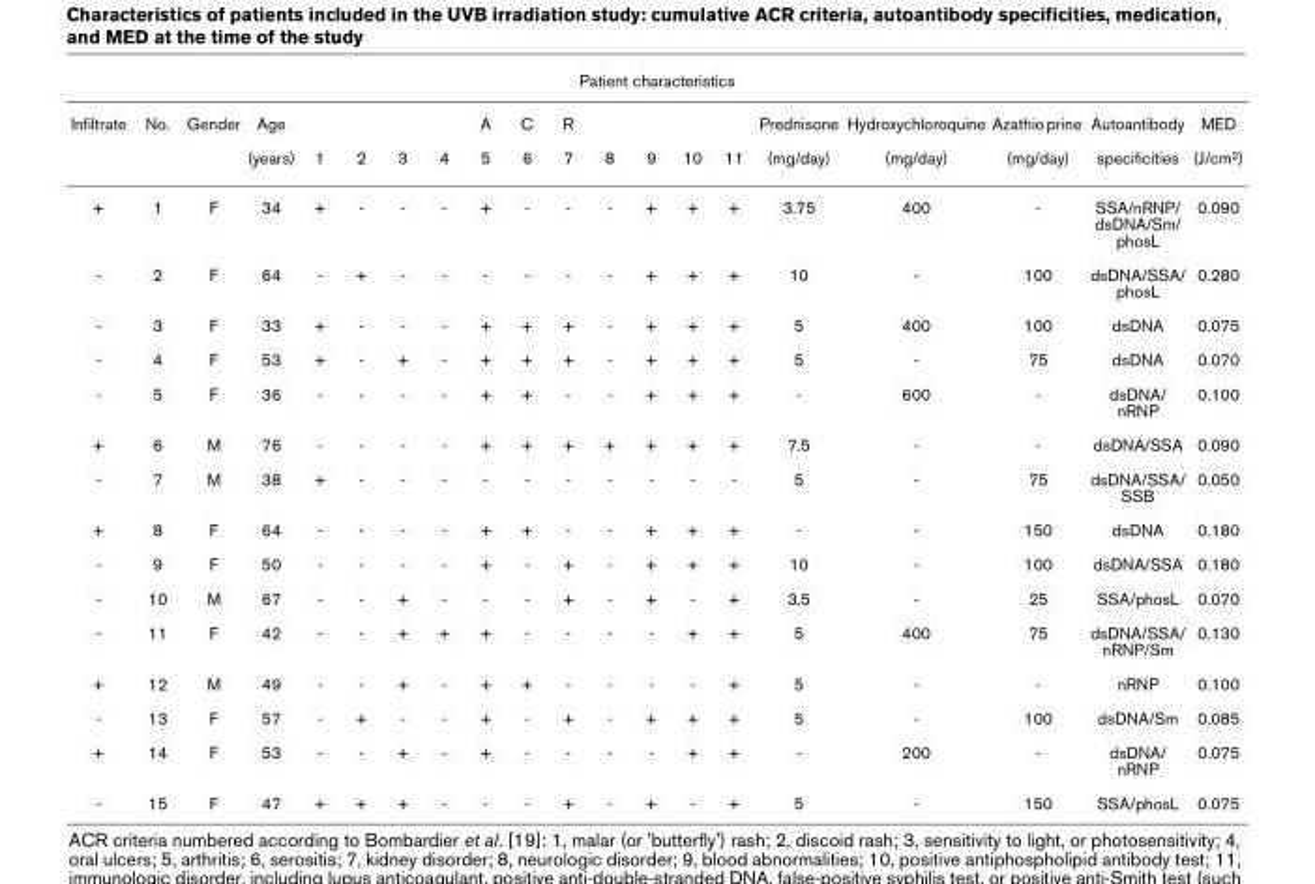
<table><thead><tr><td colspan="20">Patient characteristics</td></tr><tr><td>Infiltrate</td><td>No.</td><td>Gender</td><td>Age</td><td></td><td></td><td></td><td></td><td>A</td><td>C</td><td>R</td><td></td><td></td><td></td><td></td><td>Prednisone</td><td>Hydroxychloroquine</td><td>Azathio prine</td><td>Autoantibody</td><td>MED</td></tr></thead><tbody><tr><td></td><td></td><td></td><td>(years)</td><td>1</td><td>2</td><td>3</td><td>4</td><td>5</td><td>6</td><td>7</td><td>8</td><td>9</td><td>10</td><td>11</td><td>(mg/day)</td><td>(mg/day)</td><td>(mg/day)</td><td>specificities</td><td>(J/cm2)</td></tr><tr><td>+</td><td>1</td><td>F</td><td>34</td><td>+</td><td>-</td><td>-</td><td>-</td><td>+</td><td>-</td><td>-</td><td>-</td><td>+</td><td>+</td><td>+</td><td>3.75</td><td>400</td><td>-</td><td>SSA/nRNP/ dsDNA/Sm/ phosL</td><td>0.090</td></tr><tr><td>-</td><td>2</td><td>F</td><td>64</td><td>-</td><td>+</td><td>-</td><td>-</td><td>-</td><td>-</td><td>-</td><td>-</td><td>+</td><td>+</td><td>+</td><td>10</td><td>-</td><td>100</td><td>dsDNA/SSA/ phosL</td><td>0.280</td></tr><tr><td>-</td><td>3</td><td>F</td><td>33</td><td>+</td><td>-</td><td>-</td><td>-</td><td>+</td><td>+</td><td>+</td><td>-</td><td>+</td><td>+</td><td>+</td><td>5</td><td>400</td><td>100</td><td>dsDNA</td><td>0.075</td></tr><tr><td>-</td><td>4</td><td>F</td><td>53</td><td>+</td><td>-</td><td>+</td><td>-</td><td>+</td><td>+</td><td>+</td><td>-</td><td>+</td><td>+</td><td>+</td><td>5</td><td>-</td><td>75</td><td>dsDNA</td><td>0.070</td></tr><tr><td>-</td><td>5</td><td>F</td><td>36</td><td>-</td><td>-</td><td>-</td><td>-</td><td>+</td><td>+</td><td>-</td><td>-</td><td>+</td><td>+</td><td>+</td><td>-</td><td>600</td><td>-</td><td>dsDNA/ nRNP</td><td>0.100</td></tr><tr><td>+</td><td>6</td><td>M</td><td>76</td><td>-</td><td>-</td><td>-</td><td>-</td><td>+</td><td>+</td><td>+</td><td>+</td><td>+</td><td>+</td><td>+</td><td>7.5</td><td>-</td><td>-</td><td>dsDNA/SSA</td><td>0.090</td></tr><tr><td>-</td><td>7</td><td>M</td><td>38</td><td>+</td><td>-</td><td>-</td><td>-</td><td>-</td><td>-</td><td>-</td><td>-</td><td>-</td><td>-</td><td>-</td><td>5</td><td>-</td><td>75</td><td>dsDNA/SSA/ SSB</td><td>0.050</td></tr><tr><td>+</td><td>8</td><td>F</td><td>64</td><td>-</td><td>-</td><td>-</td><td>-</td><td>+</td><td>+</td><td>-</td><td>-</td><td>+</td><td>+</td><td>+</td><td>-</td><td>-</td><td>150</td><td>dsDNA</td><td>0.180</td></tr><tr><td>-</td><td>9</td><td>F</td><td>50</td><td>-</td><td>-</td><td>-</td><td>-</td><td>+</td><td>-</td><td>+</td><td>-</td><td>+</td><td>+</td><td>+</td><td>10</td><td>-</td><td>100</td><td>dsDNA/SSA</td><td>0.180</td></tr><tr><td>-</td><td>10</td><td>M</td><td>67</td><td>-</td><td>-</td><td>+</td><td>-</td><td>-</td><td>-</td><td>+</td><td>-</td><td>+</td><td>-</td><td>+</td><td>3.5</td><td>-</td><td>25</td><td>SSA/phosL</td><td>0.070</td></tr><tr><td>-</td><td>11</td><td>F</td><td>42</td><td>-</td><td>-</td><td>+</td><td>+</td><td>+</td><td>-</td><td>-</td><td>-</td><td>-</td><td>+</td><td>+</td><td>5</td><td>400</td><td>75</td><td>dsDNA/SSA/ nRNP/Sm</td><td>0.130</td></tr><tr><td>+</td><td>12</td><td>M</td><td>49</td><td>-</td><td>-</td><td>+</td><td>-</td><td>+</td><td>+</td><td>-</td><td>-</td><td>-</td><td>-</td><td>+</td><td>5</td><td>-</td><td>-</td><td>nRNP</td><td>0.100</td></tr><tr><td>-</td><td>13</td><td>F</td><td>57</td><td>-</td><td>+</td><td>-</td><td>-</td><td>+</td><td>-</td><td>+</td><td>-</td><td>+</td><td>+</td><td>+</td><td>5</td><td>-</td><td>100</td><td>dsDNA/Sm</td><td>0.085</td></tr><tr><td>+</td><td>14</td><td>F</td><td>53</td><td>-</td><td>-</td><td>+</td><td>-</td><td>+</td><td>-</td><td>-</td><td>-</td><td>-</td><td>+</td><td>+</td><td>-</td><td>200</td><td>-</td><td>dsDNA/ nRNP</td><td>0.075</td></tr><tr><td>-</td><td>15</td><td>F</td><td>47</td><td>+</td><td>+</td><td>+</td><td>-</td><td>-</td><td>-</td><td>+</td><td>-</td><td>+</td><td>-</td><td>+</td><td>5</td><td>-</td><td>150</td><td>SSA/phosL</td><td>0.075</td></tr></tbody></table>